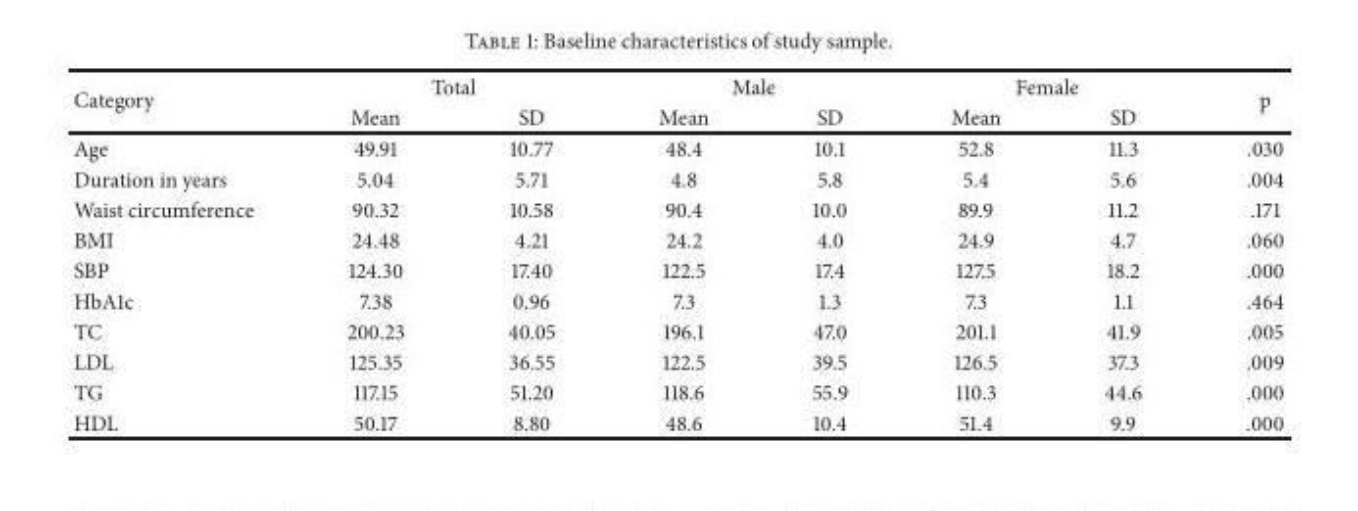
<table><thead><tr><td rowspan="2">Category</td><td colspan="2">Total</td><td colspan="2">Male</td><td colspan="2">Female</td><td rowspan="2">p</td></tr><tr><td>Mean</td><td>SD</td><td>Mean</td><td>SD</td><td>Mean</td><td>SD</td></tr></thead><tbody><tr><td>Age</td><td>49.91</td><td>10.77</td><td>48.4</td><td>10.1</td><td>52.8</td><td>11.3</td><td>.030</td></tr><tr><td>Duration in years</td><td>5.04</td><td>5.71</td><td>4.8</td><td>5.8</td><td>5.4</td><td>5.6</td><td>.004</td></tr><tr><td>Waist circumference</td><td>90.32</td><td>10.58</td><td>90.4</td><td>10.0</td><td>89.9</td><td>11.2</td><td>.171</td></tr><tr><td>BMI</td><td>24.48</td><td>4.21</td><td>24.2</td><td>4.0</td><td>24.9</td><td>4.7</td><td>.060</td></tr><tr><td>SBP</td><td>124.30</td><td>17.40</td><td>122.5</td><td>17.4</td><td>127.5</td><td>18.2</td><td>.000</td></tr><tr><td>HbA1c</td><td>7.38</td><td>0.96</td><td>7.3</td><td>1.3</td><td>7.3</td><td>1.1</td><td>.464</td></tr><tr><td>TC</td><td>200.23</td><td>40.05</td><td>196.1</td><td>47.0</td><td>201.1</td><td>41.9</td><td>.005</td></tr><tr><td>LDL</td><td>125.35</td><td>36.55</td><td>122.5</td><td>39.5</td><td>126.5</td><td>37.3</td><td>.009</td></tr><tr><td>TG</td><td>117.15</td><td>51.20</td><td>118.6</td><td>55.9</td><td>110.3</td><td>44.6</td><td>.000</td></tr><tr><td>HDL</td><td>50.17</td><td>8.80</td><td>48.6</td><td>10.4</td><td>51.4</td><td>9.9</td><td>.000</td></tr></tbody></table>